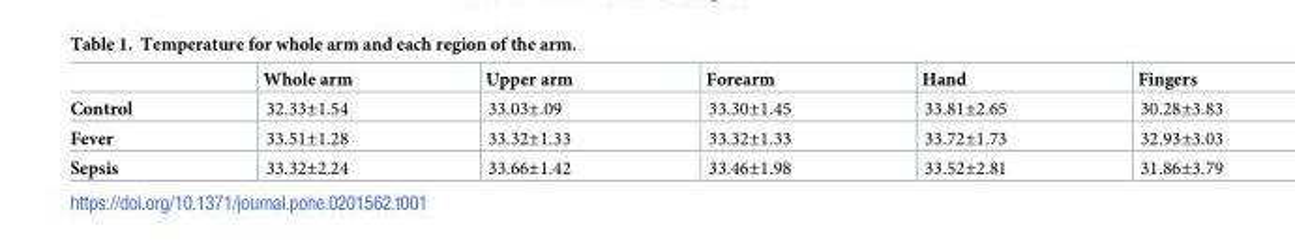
<table><thead><tr><td></td><td>Whole arm</td><td>Upper arm</td><td>Forearm</td><td>Hand</td><td>Fingers</td></tr></thead><tbody><tr><td>Control</td><td>32.33±1.54</td><td>33.03±.09</td><td>33.30±1.45</td><td>33.81±2.65</td><td>30.28±3.83</td></tr><tr><td>Fever</td><td>33.51±1.28</td><td>33.32±1.33</td><td>33.32±1.33</td><td>33.72±1.73</td><td>32.93±3.03</td></tr><tr><td>Sepsis</td><td>33.32±2.24</td><td>33.66±1.42</td><td>33.46±1.98</td><td>33.52±2.81</td><td>31.86±3.79</td></tr></tbody></table>